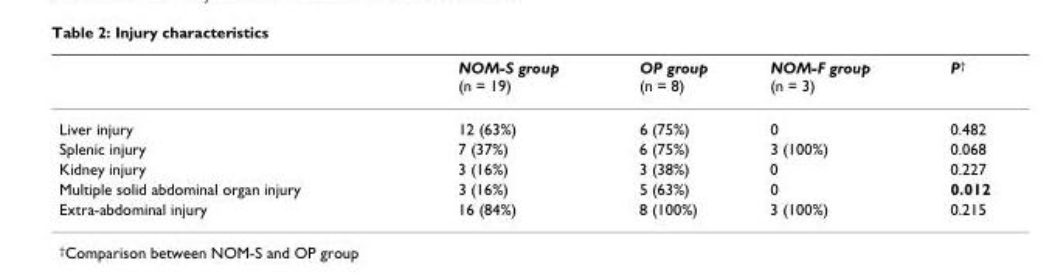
<table><thead><tr><td></td><td>NOM-S group (n = 19)</td><td>OP group (n = 8)</td><td>NOM-F group (n = 3)</td><td>P<sup>†</sup></td></tr></thead><tbody><tr><td>Liver injury</td><td>12 (63%)</td><td>6 (75%)</td><td>0</td><td>0.482</td></tr><tr><td>Splenic injury</td><td>7 (37%)</td><td>6 (75%)</td><td>3 (100%)</td><td>0.068</td></tr><tr><td>Kidney injury</td><td>3 (16%)</td><td>3 (38%)</td><td>0</td><td>0.227</td></tr><tr><td>Multiple solid abdominal organ injury</td><td>3 (16%)</td><td>5 (63%)</td><td>0</td><td>0.012</td></tr><tr><td>Extra-abdominal injury</td><td>16 (84%)</td><td>8 (100%)</td><td>3 (100%)</td><td>0.215</td></tr></tbody></table>